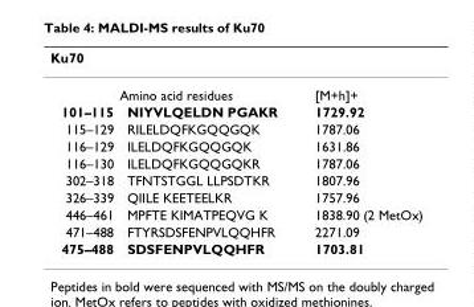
<table><thead><tr><td colspan="3">Ku70</td></tr><tr><td colspan="2">Amino acid residues</td><td rowspan="2">[M+h]+ 1729.92</td></tr><tr><td>101–115</td><td>NIYVLQELDN PGAKR</td></tr></thead><tbody><tr><td>115–129</td><td>RILELDQFKGQQGQK</td><td>1787.06</td></tr><tr><td>116–129</td><td>ILELDQFKGQQGQK</td><td>1631.86</td></tr><tr><td>116–130</td><td>ILELDQFKGQQGQKR</td><td>1787.06</td></tr><tr><td>302–318</td><td>TFNTSTGGL LLPSDTKR</td><td>1807.96</td></tr><tr><td>326–339</td><td>QIILE KEETEELKR</td><td>1757.96</td></tr><tr><td>446–461</td><td>MPFTE KIMATPEQVG K</td><td>1838.90 (2 MetOx)</td></tr><tr><td>471–488</td><td>FTYRSDSFENPVLQQHFR</td><td>2271.09</td></tr><tr><td>475–488</td><td>SDSFENPVLQQHFR</td><td>1703.81</td></tr></tbody></table>